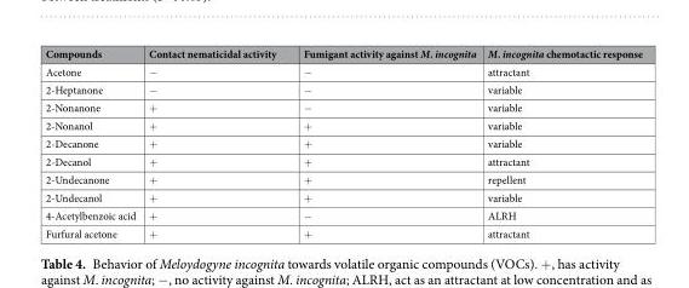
<table><thead><tr><td>Compounds</td><td>Contact nematicidal activity</td><td>Fumigant activity against M. incognita</td><td>M. incognita chemotactic response</td></tr></thead><tbody><tr><td>Acetone</td><td>−</td><td>−</td><td>attractant</td></tr><tr><td>2-Heptanone</td><td>−</td><td>−</td><td>variable</td></tr><tr><td>2-Nonanone</td><td>+</td><td>−</td><td>variable</td></tr><tr><td>2-Nonanol</td><td>+</td><td>+</td><td>variable</td></tr><tr><td>2-Decanone</td><td>+</td><td>+</td><td>variable</td></tr><tr><td>2-Decanol</td><td>+</td><td>+</td><td>attractant</td></tr><tr><td>2-Undecanone</td><td>+</td><td>+</td><td>repellent</td></tr><tr><td>2-Undecanol</td><td>+</td><td>+</td><td>variable</td></tr><tr><td>4-Acetylbenzoic acid</td><td>+</td><td>−</td><td>ALRH</td></tr><tr><td>Furfural acetone</td><td>+</td><td>+</td><td>attractant</td></tr></tbody></table>